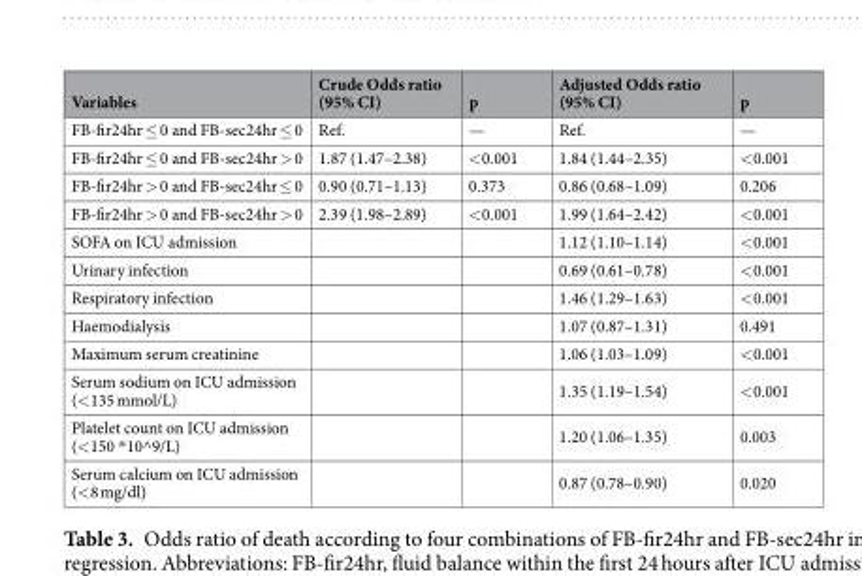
<table><thead><tr><td>Variables</td><td>Crude Odds ratio (95% CI)</td><td>p</td><td>Adjusted Odds ratio (95% CI)</td><td>p</td></tr></thead><tbody><tr><td>FB-fir24hr ≤ 0 and FB-sec24hr ≤ 0</td><td>Ref.</td><td>—</td><td>Ref.</td><td>—</td></tr><tr><td>FB-fir24hr ≤ 0 and FB-sec24hr &gt; 0</td><td>1.87 (1.47–2.38)</td><td>&lt;0.001</td><td>1.84 (1.44–2.35)</td><td>&lt;0.001</td></tr><tr><td>FB-fir24hr &gt; 0 and FB-sec24hr ≤ 0</td><td>0.90 (0.71–1.13)</td><td>0.373</td><td>0.86 (0.68–1.09)</td><td>0.206</td></tr><tr><td>FB-fir24hr &gt; 0 and FB-sec24hr &gt; 0</td><td>2.39 (1.98–2.89)</td><td>&lt;0.001</td><td>1.99 (1.64–2.42)</td><td>&lt;0.001</td></tr><tr><td>SOFA on ICU admission</td><td></td><td></td><td>1.12 (1.10–1.14)</td><td>&lt;0.001</td></tr><tr><td>Urinary infection</td><td></td><td></td><td>0.69 (0.61–0.78)</td><td>&lt;0.001</td></tr><tr><td>Respiratory infection</td><td></td><td></td><td>1.46 (1.29–1.63)</td><td>&lt;0.001</td></tr><tr><td>Haemodialysis</td><td></td><td></td><td>1.07 (0.87–1.31)</td><td>0.491</td></tr><tr><td>Maximum serum creatinine</td><td></td><td></td><td>1.06 (1.03–1.09)</td><td>&lt;0.001</td></tr><tr><td>Serum sodium on ICU admission (&lt;135 mmol/L)</td><td></td><td></td><td>1.35 (1.19–1.54)</td><td>&lt;0.001</td></tr><tr><td>Platelet count on ICU admission (&lt;150 *10^9/L)</td><td></td><td></td><td>1.20 (1.06–1.35)</td><td>0.003</td></tr><tr><td>Serum calcium on ICU admission (&lt;8 mg/dl)</td><td></td><td></td><td>0.87 (0.78–0.90)</td><td>0.020</td></tr></tbody></table>